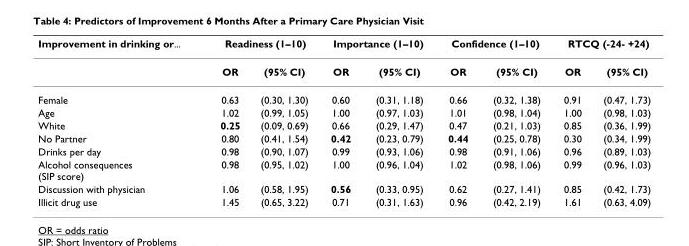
<table><thead><tr><td rowspan="2">Improvement in drinking or...</td><td colspan="2">Readiness (1–10)</td><td colspan="2">Importance (1–10)</td><td colspan="2">Confidence (1–10)</td><td colspan="2">RTCQ (-24- +24)</td></tr><tr><td>OR</td><td>(95% CI)</td><td>OR</td><td>(95% CI)</td><td>OR</td><td>(95% CI)</td><td>OR</td><td>(95% CI)</td></tr></thead><tbody><tr><td>Female</td><td>0.63</td><td>(0.30, 1.30)</td><td>0.60</td><td>(0.31, 1.18)</td><td>0.66</td><td>(0.32, 1.38)</td><td>0.91</td><td>(0.47, 1.73)</td></tr><tr><td>Age</td><td>1.02</td><td>(0.99, 1.05)</td><td>1.00</td><td>(0.97, 1.03)</td><td>1.01</td><td>(0.98, 1.04)</td><td>1.00</td><td>(0.98, 1.03)</td></tr><tr><td>White</td><td>0.25</td><td>(0.09, 0.69)</td><td>0.66</td><td>(0.29, 1.47)</td><td>0.47</td><td>(0.21, 1.03)</td><td>0.85</td><td>(0.36, 1.99)</td></tr><tr><td>No Partner</td><td>0.80</td><td>(0.41, 1.54)</td><td>0.42</td><td>(0.23, 0.79)</td><td>0.44</td><td>(0.25, 0.78)</td><td>0.30</td><td>(0.34, 1.99)</td></tr><tr><td>Drinks per day</td><td>0.98</td><td>(0.90, 1.07)</td><td>0.99</td><td>(0.93, 1.06)</td><td>0.98</td><td>(0.91, 1.06)</td><td>0.96</td><td>(0.89, 1.03)</td></tr><tr><td>Alcohol consequences (SIP score)</td><td>0.98</td><td>(0.95, 1.02)</td><td>1.00</td><td>(0.96, 1.04)</td><td>1.02</td><td>(0.98, 1.06)</td><td>0.99</td><td>(0.96, 1.03)</td></tr><tr><td>Discussion with physician</td><td>1.06</td><td>(0.58, 1.95)</td><td>0.56</td><td>(0.33, 0.95)</td><td>0.62</td><td>(0.27, 1.41)</td><td>0.85</td><td>(0.42, 1.73)</td></tr><tr><td>Illicit drug use</td><td>1.45</td><td>(0.65, 3.22)</td><td>0.71</td><td>(0.31, 1.63)</td><td>0.96</td><td>(0.42, 2.19)</td><td>1.61</td><td>(0.63, 4.09)</td></tr></tbody></table>